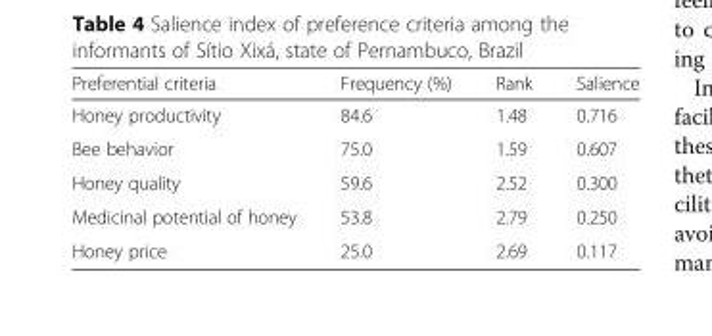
<table><thead><tr><td>Preferential criteria</td><td>Frequency (%)</td><td>Rank</td><td>Salience</td></tr></thead><tbody><tr><td>Honey productivity</td><td>84.6</td><td>1.48</td><td>0.716</td></tr><tr><td>Bee behavior</td><td>75.0</td><td>1.59</td><td>0.607</td></tr><tr><td>Honey quality</td><td>59.6</td><td>2.52</td><td>0.300</td></tr><tr><td>Medicinal potential of honey</td><td>53.8</td><td>2.79</td><td>0.250</td></tr><tr><td>Honey price</td><td>25.0</td><td>2.69</td><td>0.117</td></tr></tbody></table>